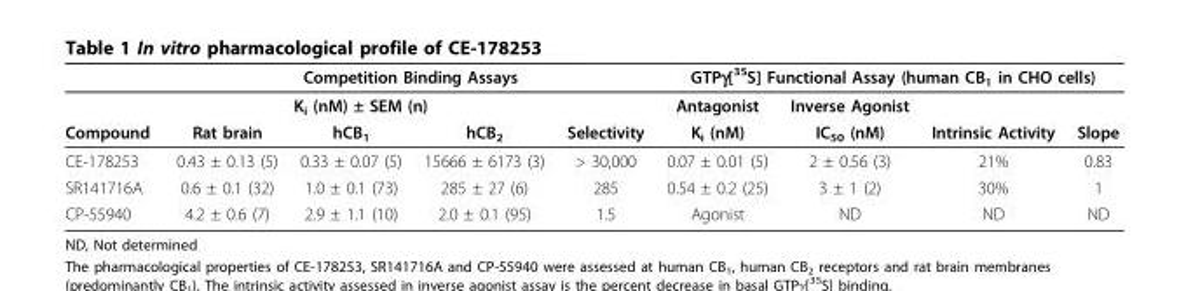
<table><thead><tr><td rowspan="3">Compound</td><td colspan="4">Competition Binding Assays</td><td colspan="4">GTPγ[35S] Functional Assay (human CB1 in CHO cells)</td></tr><tr><td colspan="3">Ki (nM) ± SEM (n)</td><td rowspan="2">Selectivity</td><td rowspan="2">Antagonist Ki (nM)</td><td rowspan="2">Inverse Agonist IC50 (nM)</td><td rowspan="2">Intrinsic Activity</td><td rowspan="2">Slope</td></tr><tr><td>Rat brain</td><td>hCB1</td><td>hCB2</td></tr></thead><tbody><tr><td>CE-178253</td><td>0.43 ± 0.13 (5)</td><td>0.33 ± 0.07 (5)</td><td>15666 ± 6173 (3)</td><td>&gt; 30,000</td><td>0.07 ± 0.01 (5)</td><td>2 ± 0.56 (3)</td><td>21%</td><td>0.83</td></tr><tr><td>SR141716A</td><td>0.6 ± 0.1 (32)</td><td>1.0 ± 0.1 (73)</td><td>285 ± 27 (6)</td><td>285</td><td>0.54 ± 0.2 (25)</td><td>3 ± 1 (2)</td><td>30%</td><td>1</td></tr><tr><td>CP-55940</td><td>4.2 ± 0.6 (7)</td><td>2.9 ± 1.1 (10)</td><td>2.0 ± 0.1 (95)</td><td>1.5</td><td>Agonist</td><td>ND</td><td>ND</td><td>ND</td></tr></tbody></table>